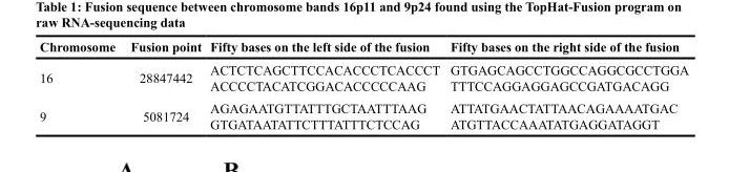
<table><thead><tr><td>Chromosome</td><td>Fusion point</td><td>Fifty bases on the left side of the fusion</td><td>Fifty bases on the right side of the fusion</td></tr></thead><tbody><tr><td>16</td><td>28847442</td><td>ACTCTCAGCTTCCACACCCTCACCCT ACCCCTACATCGGACACCCCCAAG</td><td>GTGAGCAGCCTGGCCAGGCGCCTGGA TTTCCAGGAGGAGCCGATGACAGG</td></tr><tr><td>9</td><td>5081724</td><td>AGAGAATGTTATTTGCTAATTTAAG GTGATAATATTCTTTATTTCTCCAG</td><td>ATTATGAACTATTAACAGAAAATGAC ATGTTACCAAATATGAGGATAGGT</td></tr></tbody></table>